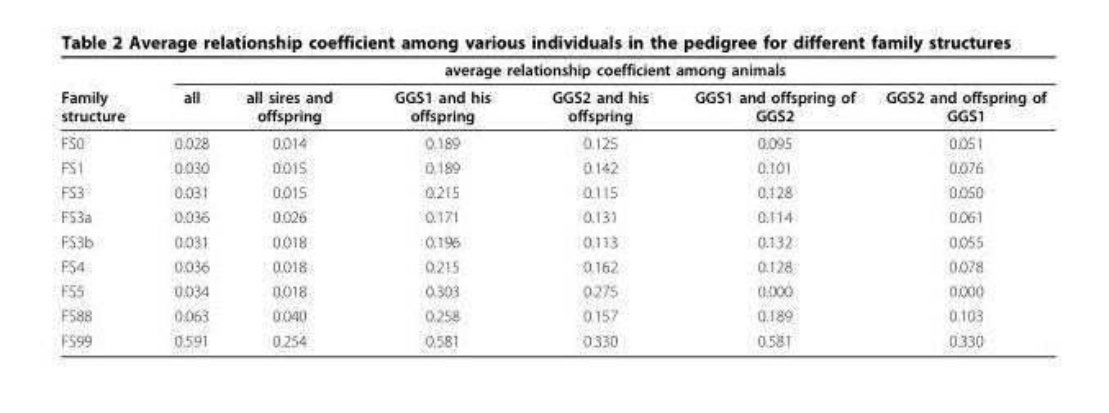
<table><thead><tr><td rowspan="2">Family structure</td><td colspan="6">average relationship coefficient among animals</td></tr><tr><td>all</td><td>all sires and offspring</td><td>GGS1 and his offspring</td><td>GGS2 and his offspring</td><td>GGS1 and offspring of GGS2</td><td>GGS2 and offspring of GGS1</td></tr></thead><tbody><tr><td>FS0</td><td>0.028</td><td>0.014</td><td>0.189</td><td>0.125</td><td>0.095</td><td>0.051</td></tr><tr><td>FS1</td><td>0.030</td><td>0.015</td><td>0.189</td><td>0.142</td><td>0.101</td><td>0.076</td></tr><tr><td>FS3</td><td>0.031</td><td>0.015</td><td>0.215</td><td>0.115</td><td>0.128</td><td>0.050</td></tr><tr><td>FS3a</td><td>0.036</td><td>0.026</td><td>0.171</td><td>0.131</td><td>0.114</td><td>0.061</td></tr><tr><td>FS3b</td><td>0.031</td><td>0.018</td><td>0.196</td><td>0.113</td><td>0.132</td><td>0.055</td></tr><tr><td>FS4</td><td>0.036</td><td>0.018</td><td>0.215</td><td>0.162</td><td>0.128</td><td>0.078</td></tr><tr><td>FS5</td><td>0.034</td><td>0.018</td><td>0.303</td><td>0.275</td><td>0.000</td><td>0.000</td></tr><tr><td>FS88</td><td>0.063</td><td>0.040</td><td>0.258</td><td>0.157</td><td>0.189</td><td>0.103</td></tr><tr><td>FS99</td><td>0.591</td><td>0.254</td><td>0.581</td><td>0.330</td><td>0.581</td><td>0.330</td></tr></tbody></table>